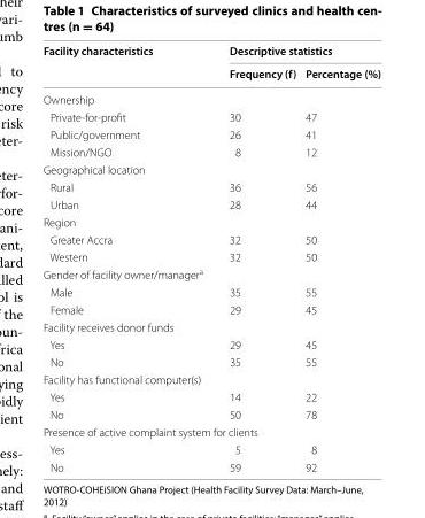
<table><thead><tr><td rowspan="2">Facility characteristics</td><td colspan="2">Descriptive statistics</td></tr><tr><td>Frequency (f)</td><td>Percentage (%)</td></tr></thead><tbody><tr><td colspan="3">Ownership</td></tr><tr><td>Private‑for‑profit</td><td>30</td><td>47</td></tr><tr><td>Public/government</td><td>26</td><td>41</td></tr><tr><td>Mission/NGO</td><td>8</td><td>12</td></tr><tr><td colspan="3">Geographical location</td></tr><tr><td>Rural</td><td>36</td><td>56</td></tr><tr><td>Urban</td><td>28</td><td>44</td></tr><tr><td colspan="3">Region</td></tr><tr><td>Greater Accra</td><td>32</td><td>50</td></tr><tr><td>Western</td><td>32</td><td>50</td></tr><tr><td colspan="3">Gender of facility owner/manager<sup>a</sup></td></tr><tr><td>Male</td><td>35</td><td>55</td></tr><tr><td>Female</td><td>29</td><td>45</td></tr><tr><td colspan="3">Facility receives donor funds</td></tr><tr><td>Yes</td><td>29</td><td>45</td></tr><tr><td>No</td><td>35</td><td>55</td></tr><tr><td colspan="3">Facility has functional computer(s)</td></tr><tr><td>Yes</td><td>14</td><td>22</td></tr><tr><td>No</td><td>50</td><td>78</td></tr><tr><td colspan="3">Presence of active complaint system for clients</td></tr><tr><td>Yes</td><td>5</td><td>8</td></tr><tr><td>No</td><td>59</td><td>92</td></tr></tbody></table>